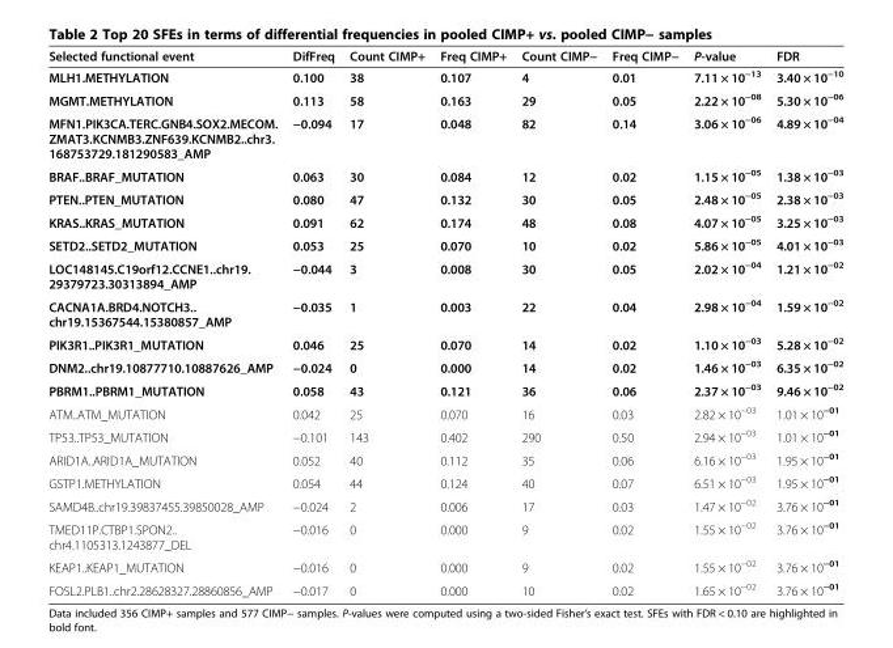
<table><thead><tr><td>Selected functional event</td><td>DifFreq</td><td>Count CIMP+</td><td>Freq CIMP+</td><td>Count CIMP−</td><td>Freq CIMP−</td><td>P-value</td><td>FDR</td></tr></thead><tbody><tr><td>MLH1.METHYLATION</td><td>0.100</td><td>38</td><td>0.107</td><td>4</td><td>0.01</td><td>7.11 × 10<sup>−13</sup></td><td>3.40 × 10<sup>−10</sup></td></tr><tr><td>MGMT.METHYLATION</td><td>0.113</td><td>58</td><td>0.163</td><td>29</td><td>0.05</td><td>2.22 × 10<sup>−08</sup></td><td>5.30 × 10<sup>−06</sup></td></tr><tr><td>MFN1.PIK3CA.TERC.GNB4.SOX2.MECOM. ZMAT3.KCNMB3.ZNF639.KCNMB2..chr3. 168753729.181290583_AMP</td><td>−0.094</td><td>17</td><td>0.048</td><td>82</td><td>0.14</td><td>3.06 × 10<sup>−06</sup></td><td>4.89 × 10<sup>−04</sup></td></tr><tr><td>BRAF..BRAF_MUTATION</td><td>0.063</td><td>30</td><td>0.084</td><td>12</td><td>0.02</td><td>1.15 × 10<sup>−05</sup></td><td>1.38 × 10<sup>−03</sup></td></tr><tr><td>PTEN..PTEN_MUTATION</td><td>0.080</td><td>47</td><td>0.132</td><td>30</td><td>0.05</td><td>2.48 × 10<sup>−05</sup></td><td>2.38 × 10<sup>−03</sup></td></tr><tr><td>KRAS..KRAS_MUTATION</td><td>0.091</td><td>62</td><td>0.174</td><td>48</td><td>0.08</td><td>4.07 × 10<sup>−05</sup></td><td>3.25 × 10<sup>−03</sup></td></tr><tr><td>SETD2..SETD2_MUTATION</td><td>0.053</td><td>25</td><td>0.070</td><td>10</td><td>0.02</td><td>5.86 × 10<sup>−05</sup></td><td>4.01 × 10<sup>−03</sup></td></tr><tr><td>LOC148145.C19orf12.CCNE1..chr19. 29379723.30313894_AMP</td><td>−0.044</td><td>3</td><td>0.008</td><td>30</td><td>0.05</td><td>2.02 × 10<sup>−04</sup></td><td>1.21 × 10<sup>−02</sup></td></tr><tr><td>CACNA1A.BRD4.NOTCH3.. chr19.15367544.15380857_AMP</td><td>−0.035</td><td>1</td><td>0.003</td><td>22</td><td>0.04</td><td>2.98 × 10<sup>−04</sup></td><td>1.59 × 10<sup>−02</sup></td></tr><tr><td>PIK3R1..PIK3R1_MUTATION</td><td>0.046</td><td>25</td><td>0.070</td><td>14</td><td>0.02</td><td>1.10 × 10<sup>−03</sup></td><td>5.28 × 10<sup>−02</sup></td></tr><tr><td>DNM2..chr19.10877710.10887626_AMP</td><td>−0.024</td><td>0</td><td>0.000</td><td>14</td><td>0.02</td><td>1.46 × 10<sup>−03</sup></td><td>6.35 × 10<sup>−02</sup></td></tr><tr><td>PBRM1..PBRM1_MUTATION</td><td>0.058</td><td>43</td><td>0.121</td><td>36</td><td>0.06</td><td>2.37 × 10<sup>−03</sup></td><td>9.46 × 10<sup>−02</sup></td></tr><tr><td>ATM..ATM_MUTATION</td><td>0.042</td><td>25</td><td>0.070</td><td>16</td><td>0.03</td><td>2.82 × 10<sup>−03</sup></td><td>1.01 × 10<sup>−01</sup></td></tr><tr><td>TP53..TP53_MUTATION</td><td>−0.101</td><td>143</td><td>0.402</td><td>290</td><td>0.50</td><td>2.94 × 10<sup>−03</sup></td><td>1.01 × 10<sup>−01</sup></td></tr><tr><td>ARID1A..ARID1A_MUTATION</td><td>0.052</td><td>40</td><td>0.112</td><td>35</td><td>0.06</td><td>6.16 × 10<sup>−03</sup></td><td>1.95 × 10<sup>−01</sup></td></tr><tr><td>GSTP1.METHYLATION</td><td>0.054</td><td>44</td><td>0.124</td><td>40</td><td>0.07</td><td>6.51 × 10<sup>−03</sup></td><td>1.95 × 10<sup>−01</sup></td></tr><tr><td>SAMD4B..chr19.39837455.39850028_AMP</td><td>−0.024</td><td>2</td><td>0.006</td><td>17</td><td>0.03</td><td>1.47 × 10<sup>−02</sup></td><td>3.76 × 10<sup>−01</sup></td></tr><tr><td>TMED11P.CTBP1.SPON2.. chr4.1105313.1243877_DEL</td><td>−0.016</td><td>0</td><td>0.000</td><td>9</td><td>0.02</td><td>1.55 × 10<sup>−02</sup></td><td>3.76 × 10<sup>−01</sup></td></tr><tr><td>KEAP1..KEAP1_MUTATION</td><td>−0.016</td><td>0</td><td>0.000</td><td>9</td><td>0.02</td><td>1.55 × 10<sup>−02</sup></td><td>3.76 × 10<sup>−01</sup></td></tr><tr><td>FOSL2.PLB1..chr2.28628327.28860856_AMP</td><td>−0.017</td><td>0</td><td>0.000</td><td>10</td><td>0.02</td><td>1.65 × 10<sup>−02</sup></td><td>3.76 × 10<sup>−01</sup></td></tr></tbody></table>